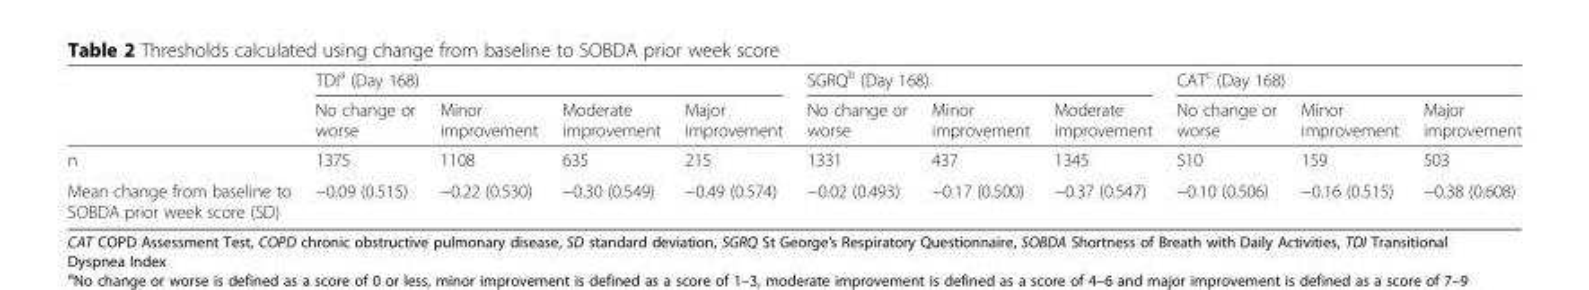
<table><thead><tr><td rowspan="2"></td><td colspan="4">TDI<sup>a</sup> (Day 168)</td><td colspan="3">SGRQ<sup>b</sup> (Day 168)</td><td colspan="3">CAT<sup>c</sup> (Day 168)</td></tr><tr><td>No change or worse</td><td>Minor improvement</td><td>Moderate improvement</td><td>Major improvement</td><td>No change or worse</td><td>Minor improvement</td><td>Moderate improvement</td><td>No change or worse</td><td>Minor improvement</td><td>Major improvement</td></tr></thead><tbody><tr><td>n</td><td>1375</td><td>1108</td><td>635</td><td>215</td><td>1331</td><td>437</td><td>1345</td><td>510</td><td>159</td><td>503</td></tr><tr><td>Mean change from baseline to SOBDA prior week score (SD)</td><td>−0.09 (0.515)</td><td>−0.22 (0.530)</td><td>−0.30 (0.549)</td><td>−0.49 (0.574)</td><td>−0.02 (0.493)</td><td>−0.17 (0.500)</td><td>−0.37 (0.547)</td><td>−0.10 (0.506)</td><td>−0.16 (0.515)</td><td>−0.38 (0.608)</td></tr></tbody></table>